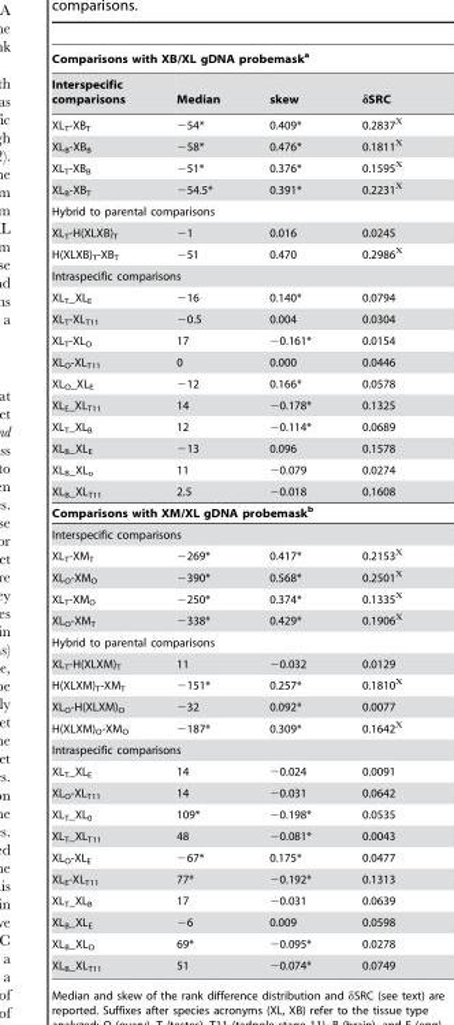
<table><thead><tr><td colspan="4">Comparisons with XB/XL gDNA probemask<sup>a</sup></td></tr><tr><td>Interspecific comparisons</td><td>Median</td><td>skew</td><td>δSRC</td></tr></thead><tbody><tr><td>XL<sub>T</sub>-XB<sub>T</sub></td><td>−54*</td><td>0.409*</td><td>0.2837X</td></tr><tr><td>XL<sub>B</sub>-XB<sub>B</sub></td><td>−58*</td><td>0.476*</td><td>0.1811X</td></tr><tr><td>XL<sub>T</sub>-XB<sub>B</sub></td><td>−51*</td><td>0.376*</td><td>0.1595X</td></tr><tr><td>XL<sub>B</sub>-XB<sub>T</sub></td><td>−54.5*</td><td>0.391*</td><td>0.2231X</td></tr><tr><td colspan="4">Hybrid to parental comparisons</td></tr><tr><td>XL<sub>T</sub>-H(XLXB)<sub>T</sub></td><td>−1</td><td>0.016</td><td>0.0245</td></tr><tr><td>H(XLXB)<sub>T</sub>-XB<sub>T</sub></td><td>−51</td><td>0.470</td><td>0.2986X</td></tr><tr><td colspan="4">Intraspecific comparisons</td></tr><tr><td>XLT_XLE</td><td>−16</td><td>0.140*</td><td>0.0794</td></tr><tr><td>XL<sub>T</sub>-XL<sub>T11</sub></td><td>−0.5</td><td>0.004</td><td>0.0304</td></tr><tr><td>XL<sub>T</sub>-XL<sub>O</sub></td><td>17</td><td>−0.161*</td><td>0.0154</td></tr><tr><td>XL<sub>O</sub>-XL<sub>T11</sub></td><td>0</td><td>0.000</td><td>0.0446</td></tr><tr><td>XLO_XLE</td><td>−12</td><td>0.166*</td><td>0.0578</td></tr><tr><td>XLE_XLT11</td><td>14</td><td>−0.178*</td><td>0.1325</td></tr><tr><td>XLT_XLB</td><td>12</td><td>−0.114*</td><td>0.0689</td></tr><tr><td>XLB_XLE</td><td>−13</td><td>0.096</td><td>0.1578</td></tr><tr><td>XLB_XLo</td><td>11</td><td>−0.079</td><td>0.0274</td></tr><tr><td>XLB_XLT11</td><td>2.5</td><td>−0.018</td><td>0.1608</td></tr><tr><td colspan="4">Comparisons with XM/XL gDNA probemask<sup>b</sup></td></tr><tr><td colspan="4">Interspecific comparisons</td></tr><tr><td>XL<sub>T</sub>-XM<sub>T</sub></td><td>−269*</td><td>0.417*</td><td>0.2153X</td></tr><tr><td>XL<sub>O</sub>-XM<sub>O</sub></td><td>−390*</td><td>0.568*</td><td>0.2501X</td></tr><tr><td>XL<sub>T</sub>-XM<sub>O</sub></td><td>−250*</td><td>0.374*</td><td>0.1335X</td></tr><tr><td>XL<sub>O</sub>-XM<sub>T</sub></td><td>−338*</td><td>0.429*</td><td>0.1906X</td></tr><tr><td colspan="4">Hybrid to parental comparisons</td></tr><tr><td>XL<sub>T</sub>-H(XLXM)<sub>T</sub></td><td>11</td><td>−0.032</td><td>0.0129</td></tr><tr><td>H(XLXM)<sub>T</sub>-XM<sub>T</sub></td><td>−151*</td><td>0.257*</td><td>0.1810X</td></tr><tr><td>XL<sub>O</sub>-H(XLXM)<sub>O</sub></td><td>−32</td><td>0.092*</td><td>0.0077</td></tr><tr><td>H(XLXM)<sub>O</sub>-XM<sub>O</sub></td><td>−187*</td><td>0.309*</td><td>0.1642X</td></tr><tr><td colspan="4">Intraspecific comparisons</td></tr><tr><td>XLT_XLE</td><td>14</td><td>−0.024</td><td>0.0091</td></tr><tr><td>XL<sub>O</sub>-XL<sub>T11</sub></td><td>14</td><td>−0.031</td><td>0.0642</td></tr><tr><td>XLT_XL0</td><td>109*</td><td>−0.198*</td><td>0.0535</td></tr><tr><td>XLT_XLT11</td><td>48</td><td>−0.081*</td><td>0.0043</td></tr><tr><td>XL<sub>O</sub>-XL<sub>E</sub></td><td>−67*</td><td>0.175*</td><td>0.0477</td></tr><tr><td>XL<sub>E</sub>-XL<sub>T11</sub></td><td>77*</td><td>−0.192*</td><td>0.1313</td></tr><tr><td>XLT_XLB</td><td>17</td><td>−0.031</td><td>0.0639</td></tr><tr><td>XLB_XLE</td><td>−6</td><td>0.009</td><td>0.0598</td></tr><tr><td>XLB_XLO</td><td>69*</td><td>−0.095*</td><td>0.0278</td></tr><tr><td>XLB_XLT11</td><td>51</td><td>−0.074*</td><td>0.0749</td></tr></tbody></table>